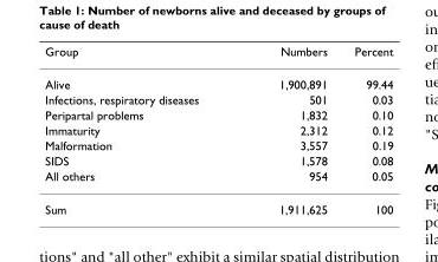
<table><thead><tr><td>Group</td><td>Numbers</td><td>Percent</td></tr></thead><tbody><tr><td>Alive</td><td>1,900,891</td><td>99.44</td></tr><tr><td>Infections, respiratory diseases</td><td>501</td><td>0.03</td></tr><tr><td>Peripartal problems</td><td>1,832</td><td>0.10</td></tr><tr><td>Immaturity</td><td>2,312</td><td>0.12</td></tr><tr><td>Malformation</td><td>3,557</td><td>0.19</td></tr><tr><td>SIDS</td><td>1,578</td><td>0.08</td></tr><tr><td>All others</td><td>954</td><td>0.05</td></tr><tr><td>Sum</td><td>1,911,625</td><td>100</td></tr></tbody></table>